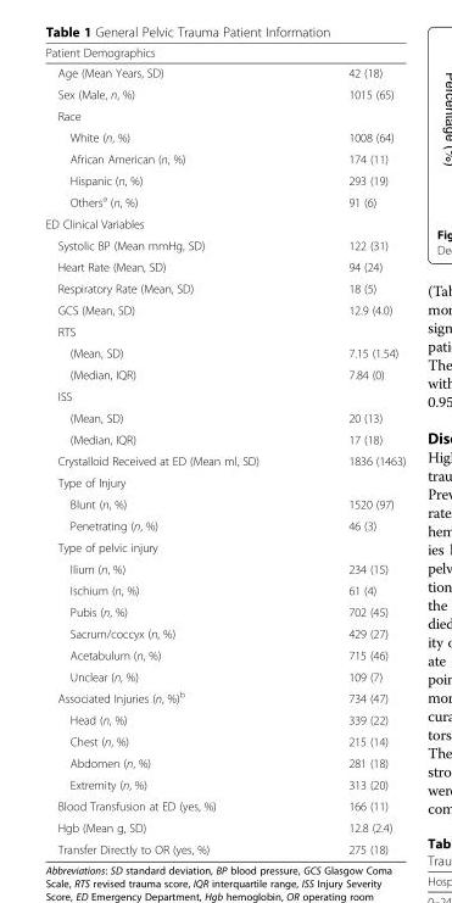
<table><thead><tr><td>Patient Demographics</td><td></td></tr></thead><tbody><tr><td>Age (Mean Years, SD)</td><td>42 (18)</td></tr><tr><td>Sex (Male, n, %)</td><td>1015 (65)</td></tr><tr><td colspan="2">Race</td></tr><tr><td>White (n, %)</td><td>1008 (64)</td></tr><tr><td>African American (n, %)</td><td>174 (11)</td></tr><tr><td>Hispanic (n, %)</td><td>293 (19)</td></tr><tr><td>Others<sup>a</sup> (n, %)</td><td>91 (6)</td></tr><tr><td colspan="2">ED Clinical Variables</td></tr><tr><td>Systolic BP (Mean mmHg, SD)</td><td>122 (31)</td></tr><tr><td>Heart Rate (Mean, SD)</td><td>94 (24)</td></tr><tr><td>Respiratory Rate (Mean, SD)</td><td>18 (5)</td></tr><tr><td>GCS (Mean, SD)</td><td>12.9 (4.0)</td></tr><tr><td colspan="2">RTS</td></tr><tr><td>(Mean, SD)</td><td>7.15 (1.54)</td></tr><tr><td>(Median, IQR)</td><td>7.84 (0)</td></tr><tr><td colspan="2">ISS</td></tr><tr><td>(Mean, SD)</td><td>20 (13)</td></tr><tr><td>(Median, IQR)</td><td>17 (18)</td></tr><tr><td>Crystalloid Received at ED (Mean ml, SD)</td><td>1836 (1463)</td></tr><tr><td colspan="2">Type of Injury</td></tr><tr><td>Blunt (n, %)</td><td>1520 (97)</td></tr><tr><td>Penetrating (n, %)</td><td>46 (3)</td></tr><tr><td colspan="2">Type of pelvic injury</td></tr><tr><td>Ilium (n, %)</td><td>234 (15)</td></tr><tr><td>Ischium (n, %)</td><td>61 (4)</td></tr><tr><td>Pubis (n, %)</td><td>702 (45)</td></tr><tr><td>Sacrum/coccyx (n, %)</td><td>429 (27)</td></tr><tr><td>Acetabulum (n, %)</td><td>715 (46)</td></tr><tr><td>Unclear (n, %)</td><td>109 (7)</td></tr><tr><td>Associated Injuries (n, %)<sup>b</sup></td><td>734 (47)</td></tr><tr><td>Head (n, %)</td><td>339 (22)</td></tr><tr><td>Chest (n, %)</td><td>215 (14)</td></tr><tr><td>Abdomen (n, %)</td><td>281 (18)</td></tr><tr><td>Extremity (n, %)</td><td>313 (20)</td></tr><tr><td>Blood Transfusion at ED (yes, %)</td><td>166 (11)</td></tr><tr><td>Hgb (Mean g, SD)</td><td>12.8 (2.4)</td></tr><tr><td>Transfer Directly to OR (yes, %)</td><td>275 (18)</td></tr></tbody></table>